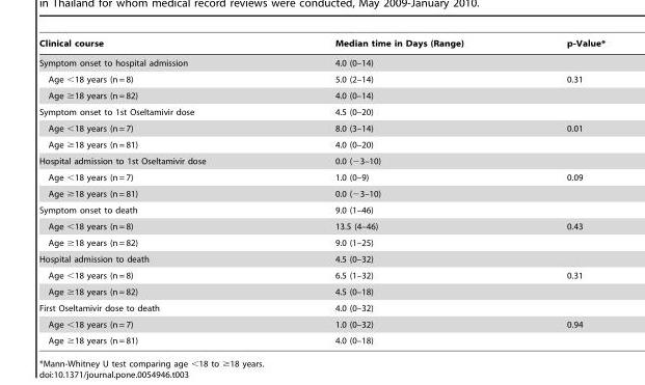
<table><thead><tr><td>Clinical course</td><td>Median time in Days (Range)</td><td>p-Value*</td></tr></thead><tbody><tr><td>Symptom onset to hospital admission</td><td>4.0 (0–14)</td><td></td></tr><tr><td>Age &lt;18 years (n = 8)</td><td>5.0 (2–14)</td><td>0.31</td></tr><tr><td>Age ≥18 years (n = 82)</td><td>4.0 (0–14)</td><td></td></tr><tr><td>Symptom onset to 1st Oseltamivir dose</td><td>4.5 (0–20)</td><td></td></tr><tr><td>Age &lt;18 years (n = 7)</td><td>8.0 (3–14)</td><td>0.01</td></tr><tr><td>Age ≥18 years (n = 81)</td><td>4.0 (0–20)</td><td></td></tr><tr><td>Hospital admission to 1st Oseltamivir dose</td><td>0.0 (−3–10)</td><td></td></tr><tr><td>Age &lt;18 years (n = 7)</td><td>1.0 (0–9)</td><td>0.09</td></tr><tr><td>Age ≥18 years (n = 81)</td><td>0.0 (−3–10)</td><td></td></tr><tr><td>Symptom onset to death</td><td>9.0 (1–46)</td><td></td></tr><tr><td>Age &lt;18 years (n = 8)</td><td>13.5 (4–46)</td><td>0.43</td></tr><tr><td>Age ≥18 years (n = 82)</td><td>9.0 (1–25)</td><td></td></tr><tr><td>Hospital admission to death</td><td>4.5 (0–32)</td><td></td></tr><tr><td>Age &lt;18 years (n = 8)</td><td>6.5 (1–32)</td><td>0.31</td></tr><tr><td>Age ≥18 years (n = 82)</td><td>4.5 (0–18)</td><td></td></tr><tr><td>First Oseltamivir dose to death</td><td>4.0 (0–32)</td><td></td></tr><tr><td>Age &lt;18 years (n = 7)</td><td>1.0 (0–32)</td><td>0.94</td></tr><tr><td>Age ≥18 years (n = 81)</td><td>4.0 (0–18)</td><td></td></tr></tbody></table>